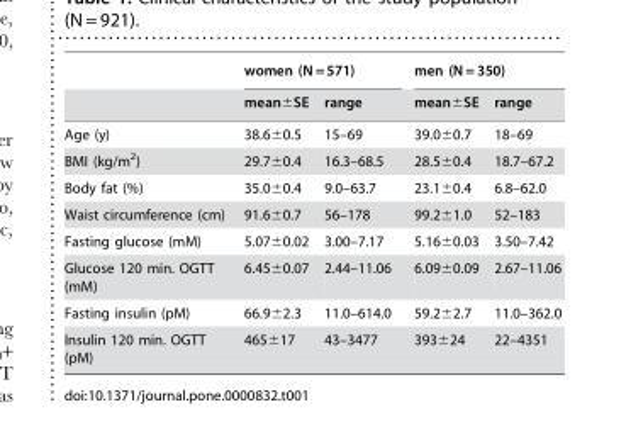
<table><thead><tr><td rowspan="2"></td><td colspan="2">women (N = 571)</td><td colspan="2">men (N = 350)</td></tr><tr><td>mean±SE</td><td>range</td><td>mean±SE</td><td>range</td></tr></thead><tbody><tr><td>Age (y)</td><td>38.6±0.5</td><td>15–69</td><td>39.0±0.7</td><td>18–69</td></tr><tr><td>BMI (kg/m<sup>2</sup>)</td><td>29.7±0.4</td><td>16.3–68.5</td><td>28.5±0.4</td><td>18.7–67.2</td></tr><tr><td>Body fat (%)</td><td>35.0±0.4</td><td>9.0–63.7</td><td>23.1±0.4</td><td>6.8–62.0</td></tr><tr><td>Waist circumference (cm)</td><td>91.6±0.7</td><td>56–178</td><td>99.2±1.0</td><td>52–183</td></tr><tr><td>Fasting glucose (mM)</td><td>5.07±0.02</td><td>3.00–7.17</td><td>5.16±0.03</td><td>3.50–7.42</td></tr><tr><td>Glucose 120 min. OGTT (mM)</td><td>6.45±0.07</td><td>2.44–11.06</td><td>6.09±0.09</td><td>2.67–11.06</td></tr><tr><td>Fasting insulin (pM)</td><td>66.9±2.3</td><td>11.0–614.0</td><td>59.2±2.7</td><td>11.0–362.0</td></tr><tr><td>Insulin 120 min. OGTT (pM)</td><td>465±17</td><td>43–3477</td><td>393±24</td><td>22–4351</td></tr></tbody></table>